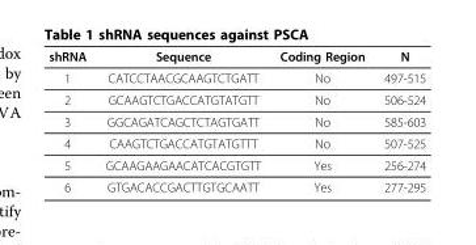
<table><thead><tr><td>shRNA</td><td>Sequence</td><td>Coding Region</td><td>N</td></tr></thead><tbody><tr><td>1</td><td>CATCCTAACGCAAGTCTGATT</td><td>No</td><td>497-515</td></tr><tr><td>2</td><td>GCAAGTCTGACCATGTATGTT</td><td>No</td><td>506-524</td></tr><tr><td>3</td><td>GGCAGATCAGCTCTAGTGATT</td><td>No</td><td>585-603</td></tr><tr><td>4</td><td>CAAGTCTGACCATGTATGTTT</td><td>No</td><td>507-525</td></tr><tr><td>5</td><td>GCAAGAAGAACATCACGTGTT</td><td>Yes</td><td>256-274</td></tr><tr><td>6</td><td>GTGACACCGACTTGTGCAATT</td><td>Yes</td><td>277-295</td></tr></tbody></table>